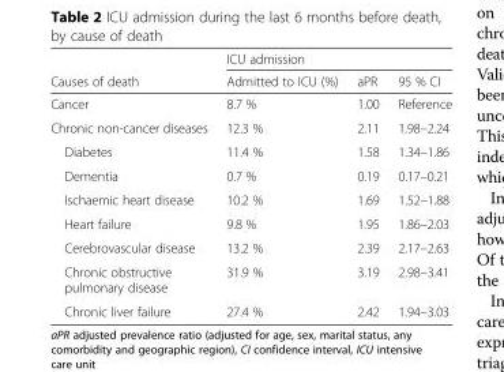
<table><thead><tr><td rowspan="2">Causes of death</td><td colspan="3">ICU admission</td></tr><tr><td>Admitted to ICU (%)</td><td>aPR</td><td>95 % CI</td></tr></thead><tbody><tr><td>Cancer</td><td>8.7 %</td><td>1.00</td><td>Reference</td></tr><tr><td>Chronic non-cancer diseases</td><td>12.3 %</td><td>2.11</td><td>1.98–2.24</td></tr><tr><td>Diabetes</td><td>11.4 %</td><td>1.58</td><td>1.34–1.86</td></tr><tr><td>Dementia</td><td>0.7 %</td><td>0.19</td><td>0.17–0.21</td></tr><tr><td>Ischaemic heart disease</td><td>10.2 %</td><td>1.69</td><td>1.52–1.88</td></tr><tr><td>Heart failure</td><td>9.8 %</td><td>1.95</td><td>1.86–2.03</td></tr><tr><td>Cerebrovascular disease</td><td>13.2 %</td><td>2.39</td><td>2.17–2.63</td></tr><tr><td>Chronic obstructive pulmonary disease</td><td>31.9 %</td><td>3.19</td><td>2.98–3.41</td></tr><tr><td>Chronic liver failure</td><td>27.4 %</td><td>2.42</td><td>1.94–3.03</td></tr></tbody></table>